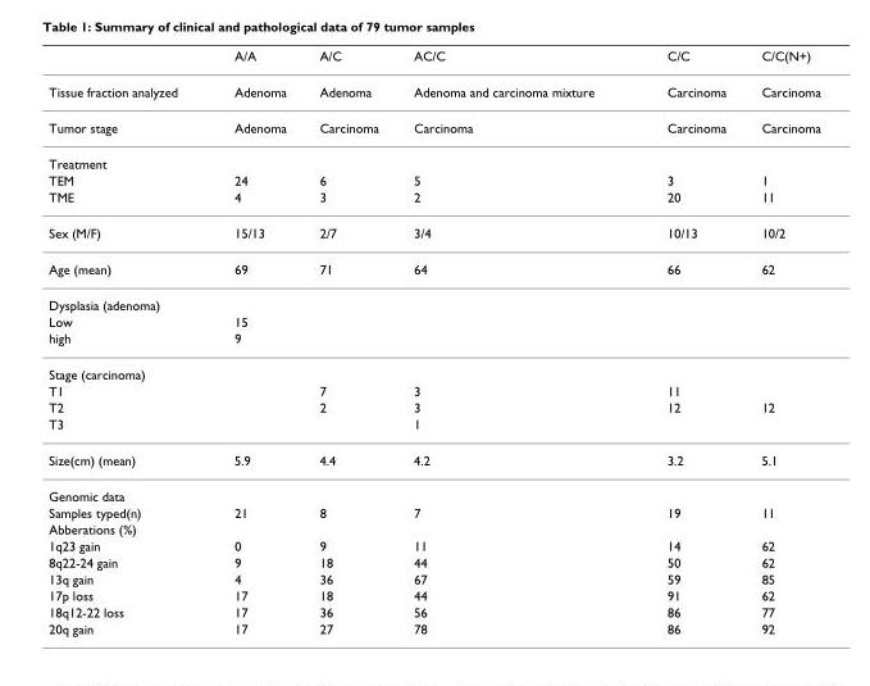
<table><thead><tr><td></td><td>A/A</td><td>A/C</td><td>AC/C</td><td>C/C</td><td>C/C(N+)</td></tr></thead><tbody><tr><td>Tissue fraction analyzed</td><td>Adenoma</td><td>Adenoma</td><td>Adenoma and carcinoma mixture</td><td>Carcinoma</td><td>Carcinoma</td></tr><tr><td>Tumor stage</td><td>Adenoma</td><td>Carcinoma</td><td>Carcinoma</td><td>Carcinoma</td><td>Carcinoma</td></tr><tr><td colspan="6">Treatment</td></tr><tr><td>TEM</td><td>24</td><td>6</td><td>5</td><td>3</td><td>1</td></tr><tr><td>TME</td><td>4</td><td>3</td><td>2</td><td>20</td><td>11</td></tr><tr><td>Sex (M/F)</td><td>15/13</td><td>2/7</td><td>3/4</td><td>10/13</td><td>10/2</td></tr><tr><td>Age (mean)</td><td>69</td><td>71</td><td>64</td><td>66</td><td>62</td></tr><tr><td colspan="6">Dysplasia (adenoma)</td></tr><tr><td>Low</td><td>15</td><td></td><td></td><td></td><td></td></tr><tr><td>high</td><td>9</td><td></td><td></td><td></td><td></td></tr><tr><td colspan="6">Stage (carcinoma)</td></tr><tr><td>T1</td><td></td><td>7</td><td>3</td><td>11</td><td></td></tr><tr><td>T2</td><td></td><td>2</td><td>3</td><td>12</td><td>12</td></tr><tr><td>T3</td><td></td><td></td><td>1</td><td></td><td></td></tr><tr><td>Size(cm) (mean)</td><td>5.9</td><td>4.4</td><td>4.2</td><td>3.2</td><td>5.1</td></tr><tr><td colspan="6">Genomic data</td></tr><tr><td>Samples typed(n)</td><td>21</td><td>8</td><td>7</td><td>19</td><td>11</td></tr><tr><td colspan="6">Abberations (%)</td></tr><tr><td>1q23 gain</td><td>0</td><td>9</td><td>11</td><td>14</td><td>62</td></tr><tr><td>8q22-24 gain</td><td>9</td><td>18</td><td>44</td><td>50</td><td>62</td></tr><tr><td>13q gain</td><td>4</td><td>36</td><td>67</td><td>59</td><td>85</td></tr><tr><td>17p loss</td><td>17</td><td>18</td><td>44</td><td>91</td><td>62</td></tr><tr><td>18q12-22 loss</td><td>17</td><td>36</td><td>56</td><td>86</td><td>77</td></tr><tr><td>20q gain</td><td>17</td><td>27</td><td>78</td><td>86</td><td>92</td></tr></tbody></table>